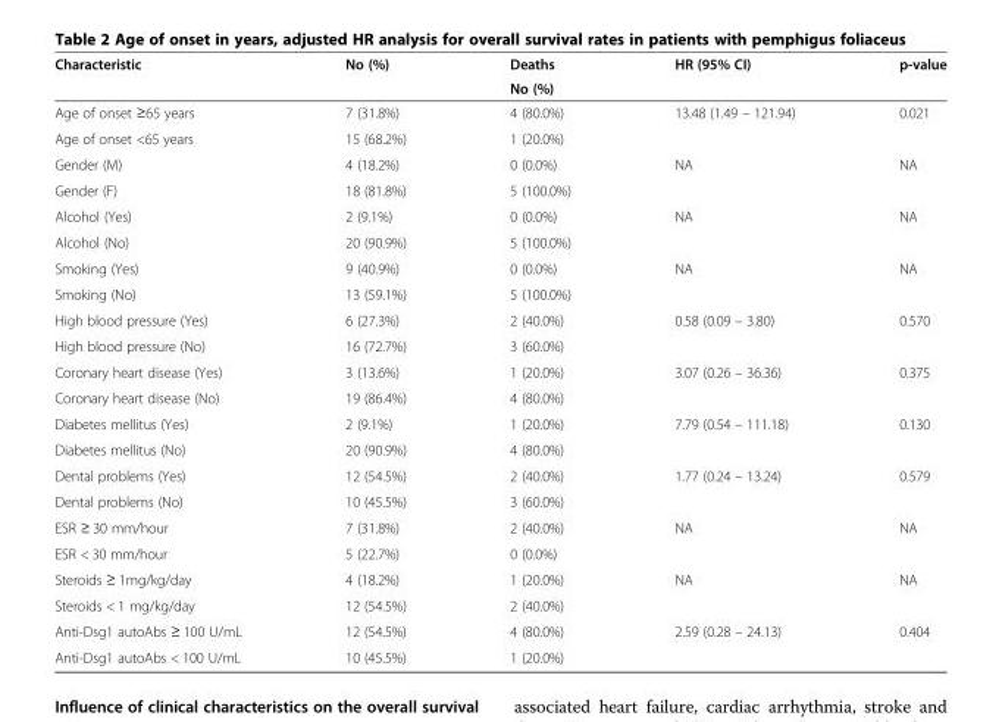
<table><thead><tr><td rowspan="2">Characteristic</td><td rowspan="2">No (%)</td><td rowspan="2">Deaths No (%)</td><td rowspan="2">HR (95% CI)</td><td rowspan="2">p-value</td></tr><tr></tr></thead><tbody><tr><td>Age of onset ≥65 years</td><td>7 (31.8%)</td><td>4 (80.0%)</td><td>13.48 (1.49 – 121.94)</td><td>0.021</td></tr><tr><td>Age of onset &lt;65 years</td><td>15 (68.2%)</td><td>1 (20.0%)</td><td></td><td></td></tr><tr><td>Gender (M)</td><td>4 (18.2%)</td><td>0 (0.0%)</td><td>NA</td><td>NA</td></tr><tr><td>Gender (F)</td><td>18 (81.8%)</td><td>5 (100.0%)</td><td></td><td></td></tr><tr><td>Alcohol (Yes)</td><td>2 (9.1%)</td><td>0 (0.0%)</td><td>NA</td><td>NA</td></tr><tr><td>Alcohol (No)</td><td>20 (90.9%)</td><td>5 (100.0%)</td><td></td><td></td></tr><tr><td>Smoking (Yes)</td><td>9 (40.9%)</td><td>0 (0.0%)</td><td>NA</td><td>NA</td></tr><tr><td>Smoking (No)</td><td>13 (59.1%)</td><td>5 (100.0%)</td><td></td><td></td></tr><tr><td>High blood pressure (Yes)</td><td>6 (27.3%)</td><td>2 (40.0%)</td><td>0.58 (0.09 – 3.80)</td><td>0.570</td></tr><tr><td>High blood pressure (No)</td><td>16 (72.7%)</td><td>3 (60.0%)</td><td></td><td></td></tr><tr><td>Coronary heart disease (Yes)</td><td>3 (13.6%)</td><td>1 (20.0%)</td><td>3.07 (0.26 – 36.36)</td><td>0.375</td></tr><tr><td>Coronary heart disease (No)</td><td>19 (86.4%)</td><td>4 (80.0%)</td><td></td><td></td></tr><tr><td>Diabetes mellitus (Yes)</td><td>2 (9.1%)</td><td>1 (20.0%)</td><td>7.79 (0.54 – 111.18)</td><td>0.130</td></tr><tr><td>Diabetes mellitus (No)</td><td>20 (90.9%)</td><td>4 (80.0%)</td><td></td><td></td></tr><tr><td>Dental problems (Yes)</td><td>12 (54.5%)</td><td>2 (40.0%)</td><td>1.77 (0.24 – 13.24)</td><td>0.579</td></tr><tr><td>Dental problems (No)</td><td>10 (45.5%)</td><td>3 (60.0%)</td><td></td><td></td></tr><tr><td>ESR ≥ 30 mm/hour</td><td>7 (31.8%)</td><td>2 (40.0%)</td><td>NA</td><td>NA</td></tr><tr><td>ESR &lt; 30 mm/hour</td><td>5 (22.7%)</td><td>0 (0.0%)</td><td></td><td></td></tr><tr><td>Steroids ≥ 1mg/kg/day</td><td>4 (18.2%)</td><td>1 (20.0%)</td><td>NA</td><td>NA</td></tr><tr><td>Steroids &lt; 1 mg/kg/day</td><td>12 (54.5%)</td><td>2 (40.0%)</td><td></td><td></td></tr><tr><td>Anti-Dsg1 autoAbs ≥ 100 U/mL</td><td>12 (54.5%)</td><td>4 (80.0%)</td><td>2.59 (0.28 – 24.13)</td><td>0.404</td></tr><tr><td>Anti-Dsg1 autoAbs &lt; 100 U/mL</td><td>10 (45.5%)</td><td>1 (20.0%)</td><td></td><td></td></tr></tbody></table>